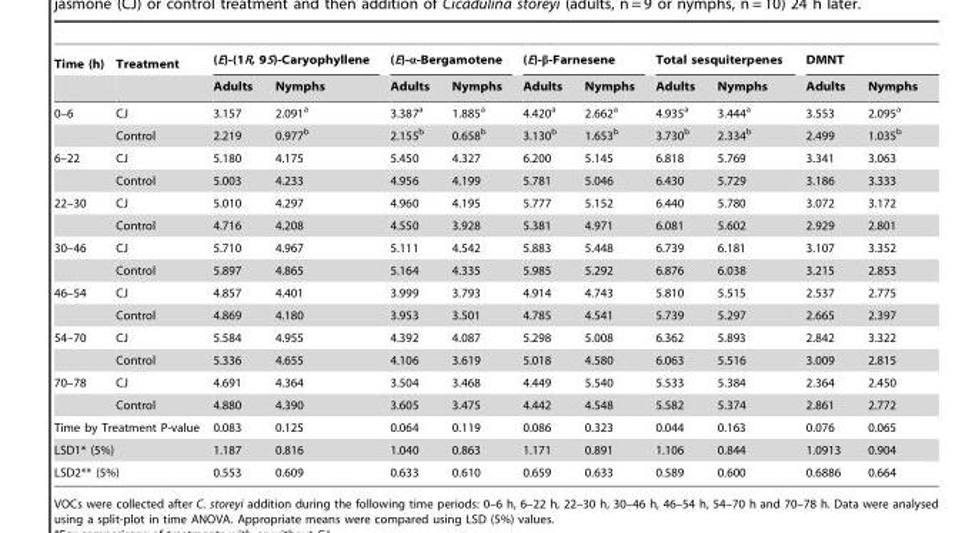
<table><thead><tr><td rowspan="2">Time (h)</td><td rowspan="2">Treatment</td><td colspan="2">(E)-(1R, 9S)-Caryophyllene</td><td colspan="2">(E)-α-Bergamotene</td><td colspan="2">(E)-β-Farnesene</td><td colspan="2">Total sesquiterpenes</td><td colspan="2">DMNT</td></tr><tr><td>Adults</td><td>Nymphs</td><td>Adults</td><td>Nymphs</td><td>Adults</td><td>Nymphs</td><td>Adults</td><td>Nymphs</td><td>Adults</td><td>Nymphs</td></tr></thead><tbody><tr><td rowspan="2">0–6</td><td>CJ</td><td>3.157</td><td>2.091<sup>a</sup></td><td>3.387<sup>a</sup></td><td>1.885<sup>a</sup></td><td>4.420<sup>a</sup></td><td>2.662<sup>a</sup></td><td>4.935<sup>a</sup></td><td>3.444<sup>a</sup></td><td>3.553</td><td>2.095<sup>a</sup></td></tr><tr><td>Control</td><td>2.219</td><td>0.977<sup>b</sup></td><td>2.155<sup>b</sup></td><td>0.658<sup>b</sup></td><td>3.130<sup>b</sup></td><td>1.653<sup>b</sup></td><td>3.730<sup>b</sup></td><td>2.334<sup>b</sup></td><td>2.499</td><td>1.035<sup>b</sup></td></tr><tr><td rowspan="2">6–22</td><td>CJ</td><td>5.180</td><td>4.175</td><td>5.450</td><td>4.327</td><td>6.200</td><td>5.145</td><td>6.818</td><td>5.769</td><td>3.341</td><td>3.063</td></tr><tr><td>Control</td><td>5.003</td><td>4.233</td><td>4.956</td><td>4.199</td><td>5.781</td><td>5.046</td><td>6.430</td><td>5.729</td><td>3.186</td><td>3.333</td></tr><tr><td rowspan="2">22–30</td><td>CJ</td><td>5.010</td><td>4.297</td><td>4.960</td><td>4.195</td><td>5.777</td><td>5.152</td><td>6.440</td><td>5.780</td><td>3.072</td><td>3.172</td></tr><tr><td>Control</td><td>4.716</td><td>4.208</td><td>4.550</td><td>3.928</td><td>5.381</td><td>4.971</td><td>6.081</td><td>5.602</td><td>2.929</td><td>2.801</td></tr><tr><td rowspan="2">30–46</td><td>CJ</td><td>5.710</td><td>4.967</td><td>5.111</td><td>4.542</td><td>5.883</td><td>5.448</td><td>6.739</td><td>6.181</td><td>3.107</td><td>3.352</td></tr><tr><td>Control</td><td>5.897</td><td>4.865</td><td>5.164</td><td>4.335</td><td>5.985</td><td>5.292</td><td>6.876</td><td>6.038</td><td>3.215</td><td>2.853</td></tr><tr><td rowspan="2">46–54</td><td>CJ</td><td>4.857</td><td>4.401</td><td>3.999</td><td>3.793</td><td>4.914</td><td>4.743</td><td>5.810</td><td>5.515</td><td>2.537</td><td>2.775</td></tr><tr><td>Control</td><td>4.869</td><td>4.180</td><td>3.953</td><td>3.501</td><td>4.785</td><td>4.541</td><td>5.739</td><td>5.297</td><td>2.665</td><td>2.397</td></tr><tr><td rowspan="2">54–70</td><td>CJ</td><td>5.584</td><td>4.955</td><td>4.392</td><td>4.087</td><td>5.298</td><td>5.008</td><td>6.362</td><td>5.893</td><td>2.842</td><td>3.322</td></tr><tr><td>Control</td><td>5.336</td><td>4.655</td><td>4.106</td><td>3.619</td><td>5.018</td><td>4.580</td><td>6.063</td><td>5.516</td><td>3.009</td><td>2.815</td></tr><tr><td rowspan="2">70–78</td><td>CJ</td><td>4.691</td><td>4.364</td><td>3.504</td><td>3.468</td><td>4.449</td><td>5.540</td><td>5.533</td><td>5.384</td><td>2.364</td><td>2.450</td></tr><tr><td>Control</td><td>4.880</td><td>4.390</td><td>3.605</td><td>3.475</td><td>4.442</td><td>4.548</td><td>5.582</td><td>5.374</td><td>2.861</td><td>2.772</td></tr><tr><td colspan="2">Time by Treatment P-value</td><td>0.083</td><td>0.125</td><td>0.064</td><td>0.119</td><td>0.086</td><td>0.323</td><td>0.044</td><td>0.163</td><td>0.076</td><td>0.065</td></tr><tr><td colspan="2">LSD1* (5%)</td><td>1.187</td><td>0.816</td><td>1.040</td><td>0.863</td><td>1.171</td><td>0.891</td><td>1.106</td><td>0.844</td><td>1.0913</td><td>0.904</td></tr><tr><td colspan="2">LSD2** (5%)</td><td>0.553</td><td>0.609</td><td>0.633</td><td>0.610</td><td>0.659</td><td>0.633</td><td>0.589</td><td>0.600</td><td>0.6886</td><td>0.664</td></tr></tbody></table>